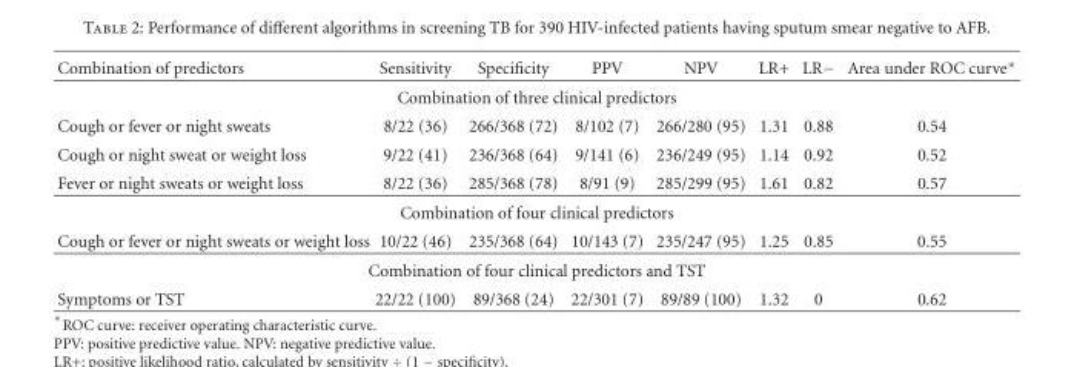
<table><thead><tr><td>Combination of predictors</td><td>Sensitivity</td><td>Specificity</td><td>PPV</td><td>NPV</td><td>LR+</td><td>LR−</td><td>Area under ROC curve∗</td></tr></thead><tbody><tr><td colspan="8">Combination of three clinical predictors</td></tr><tr><td>Cough or fever or night sweats</td><td>8/22 (36)</td><td>266/368 (72)</td><td>8/102 (7)</td><td>266/280 (95)</td><td>1.31</td><td>0.88</td><td>0.54</td></tr><tr><td>Cough or night sweat or weight loss</td><td>9/22 (41)</td><td>236/368 (64)</td><td>9/141 (6)</td><td>236/249 (95)</td><td>1.14</td><td>0.92</td><td>0.52</td></tr><tr><td>Fever or night sweats or weight loss</td><td>8/22 (36)</td><td>285/368 (78)</td><td>8/91 (9)</td><td>285/299 (95)</td><td>1.61</td><td>0.82</td><td>0.57</td></tr><tr><td colspan="8">Combination of four clinical predictors</td></tr><tr><td>Cough or fever or night sweats or weight loss</td><td>10/22 (46)</td><td>235/368 (64)</td><td>10/143 (7)</td><td>235/247 (95)</td><td>1.25</td><td>0.85</td><td>0.55</td></tr><tr><td colspan="8">Combination of four clinical predictors and TST</td></tr><tr><td>Symptoms or TST</td><td>22/22 (100)</td><td>89/368 (24)</td><td>22/301 (7)</td><td>89/89 (100)</td><td>1.32</td><td>0</td><td>0.62</td></tr></tbody></table>